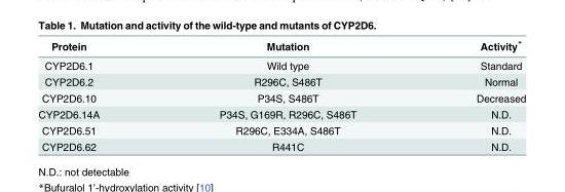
<table><thead><tr><td>Protein</td><td>Mutation</td><td>Activity*</td></tr></thead><tbody><tr><td>CYP2D6.1</td><td>Wild type</td><td>Standard</td></tr><tr><td>CYP2D6.2</td><td>R296C, S486T</td><td>Normal</td></tr><tr><td>CYP2D6.10</td><td>P34S, S486T</td><td>Decreased</td></tr><tr><td>CYP2D6.14A</td><td>P34S, G169R, R296C, S486T</td><td>N.D.</td></tr><tr><td>CYP2D6.51</td><td>R296C, E334A, S486T</td><td>N.D.</td></tr><tr><td>CYP2D6.62</td><td>R441C</td><td>N.D.</td></tr></tbody></table>